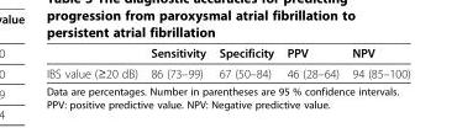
<table><thead><tr><td></td><td>Sensitivity</td><td>Specificity</td><td>PPV</td><td>NPV</td></tr></thead><tbody><tr><td>IBS value (≥20 dB)</td><td>86 (73–99)</td><td>67 (50–84)</td><td>46 (28–64)</td><td>94 (85–100)</td></tr></tbody></table>